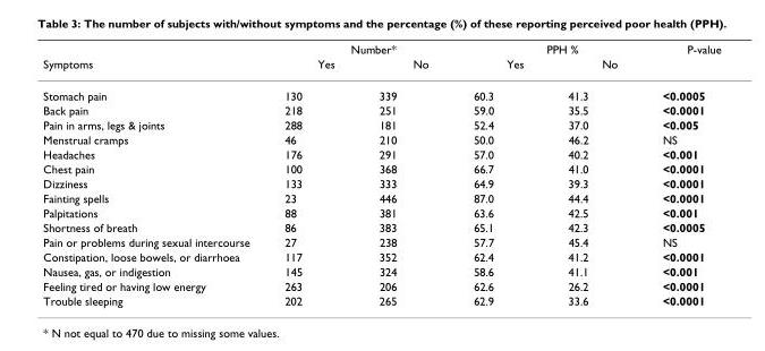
<table><thead><tr><td rowspan="2">Symptoms</td><td colspan="2">Number*</td><td colspan="2">PPH %</td><td rowspan="2">P-value</td></tr><tr><td>Yes</td><td>No</td><td>Yes</td><td>No</td></tr></thead><tbody><tr><td>Stomach pain</td><td>130</td><td>339</td><td>60.3</td><td>41.3</td><td>&lt;0.0005</td></tr><tr><td>Back pain</td><td>218</td><td>251</td><td>59.0</td><td>35.5</td><td>&lt;0.0001</td></tr><tr><td>Pain in arms, legs &amp; joints</td><td>288</td><td>181</td><td>52.4</td><td>37.0</td><td>&lt;0.005</td></tr><tr><td>Menstrual cramps</td><td>46</td><td>210</td><td>50.0</td><td>46.2</td><td>NS</td></tr><tr><td>Headaches</td><td>176</td><td>291</td><td>57.0</td><td>40.2</td><td>&lt;0.001</td></tr><tr><td>Chest pain</td><td>100</td><td>368</td><td>66.7</td><td>41.0</td><td>&lt;0.0001</td></tr><tr><td>Dizziness</td><td>133</td><td>333</td><td>64.9</td><td>39.3</td><td>&lt;0.0001</td></tr><tr><td>Fainting spells</td><td>23</td><td>446</td><td>87.0</td><td>44.4</td><td>&lt;0.0001</td></tr><tr><td>Palpitations</td><td>88</td><td>381</td><td>63.6</td><td>42.5</td><td>&lt;0.001</td></tr><tr><td>Shortness of breath</td><td>86</td><td>383</td><td>65.1</td><td>42.3</td><td>&lt;0.0005</td></tr><tr><td>Pain or problems during sexual intercourse</td><td>27</td><td>238</td><td>57.7</td><td>45.4</td><td>NS</td></tr><tr><td>Constipation, loose bowels, or diarrhoea</td><td>117</td><td>352</td><td>62.4</td><td>41.2</td><td>&lt;0.0001</td></tr><tr><td>Nausea, gas, or indigestion</td><td>145</td><td>324</td><td>58.6</td><td>41.1</td><td>&lt;0.001</td></tr><tr><td>Feeling tired or having low energy</td><td>263</td><td>206</td><td>62.6</td><td>26.2</td><td>&lt;0.0001</td></tr><tr><td>Trouble sleeping</td><td>202</td><td>265</td><td>62.9</td><td>33.6</td><td>&lt;0.0001</td></tr></tbody></table>